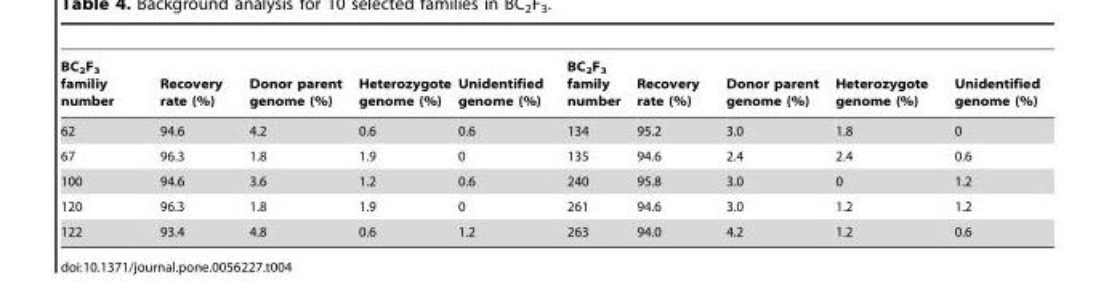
<table><thead><tr><td>BC<sub>2</sub>F<sub>3</sub> familiy number</td><td>Recovery rate (%)</td><td>Donor parent genome (%)</td><td>Heterozygote genome (%)</td><td>Unidentified genome (%)</td><td>BC<sub>2</sub>F<sub>3</sub> family number</td><td>Recovery rate (%)</td><td>Donor parent genome (%)</td><td>Heterozygote genome (%)</td><td>Unidentified genome (%)</td></tr></thead><tbody><tr><td>62</td><td>94.6</td><td>4.2</td><td>0.6</td><td>0.6</td><td>134</td><td>95.2</td><td>3.0</td><td>1.8</td><td>0</td></tr><tr><td>67</td><td>96.3</td><td>1.8</td><td>1.9</td><td>0</td><td>135</td><td>94.6</td><td>2.4</td><td>2.4</td><td>0.6</td></tr><tr><td>100</td><td>94.6</td><td>3.6</td><td>1.2</td><td>0.6</td><td>240</td><td>95.8</td><td>3.0</td><td>0</td><td>1.2</td></tr><tr><td>120</td><td>96.3</td><td>1.8</td><td>1.9</td><td>0</td><td>261</td><td>94.6</td><td>3.0</td><td>1.2</td><td>1.2</td></tr><tr><td>122</td><td>93.4</td><td>4.8</td><td>0.6</td><td>1.2</td><td>263</td><td>94.0</td><td>4.2</td><td>1.2</td><td>0.6</td></tr></tbody></table>